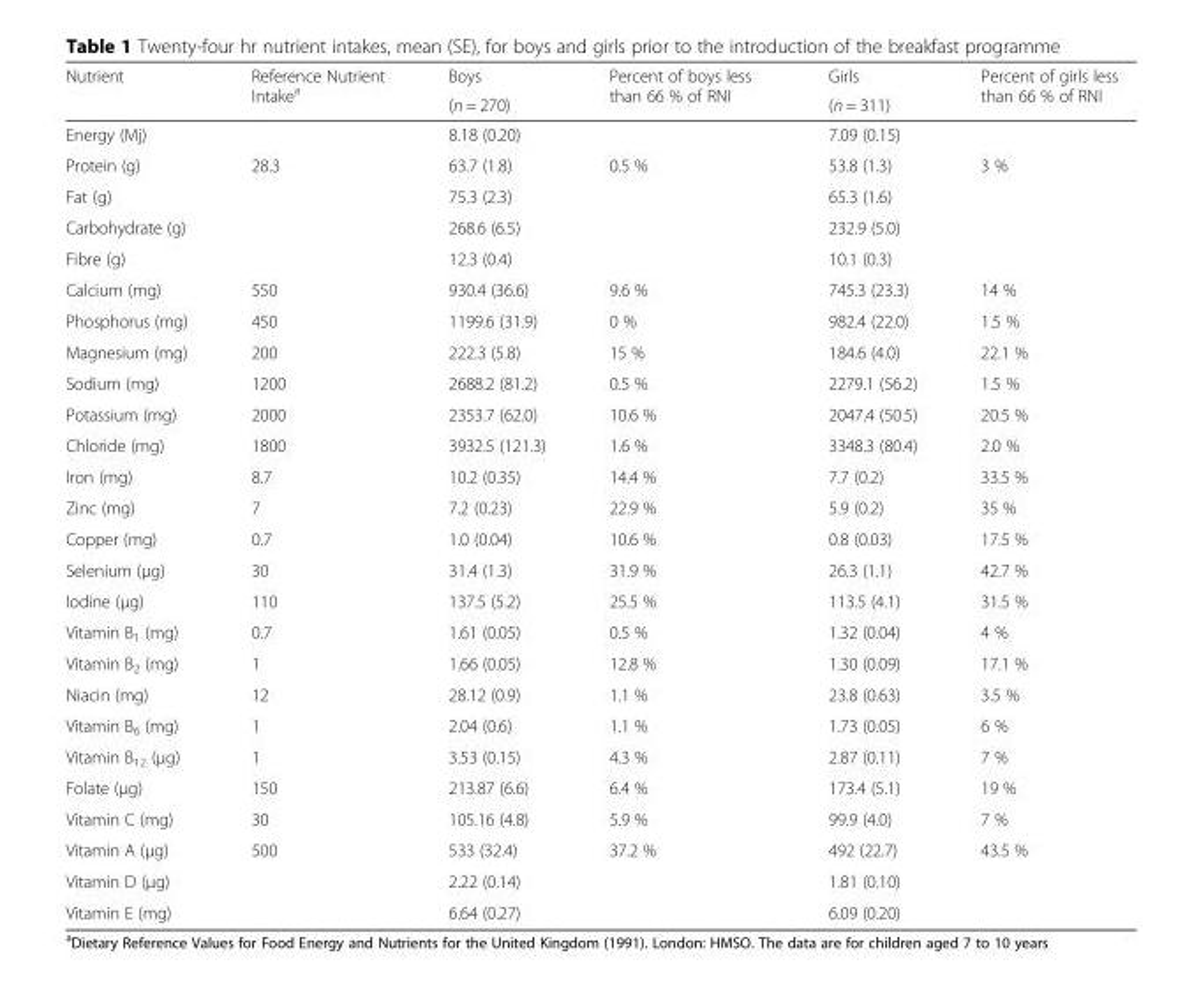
<table><thead><tr><td rowspan="2">Nutrient</td><td rowspan="2">Reference Nutrient Intake<sup>a</sup></td><td rowspan="2">Boys (n = 270)</td><td rowspan="2">Percent of boys less than 66 % of RNI</td><td rowspan="2">Girls (n = 311)</td><td rowspan="2">Percent of girls less than 66 % of RNI</td></tr><tr></tr></thead><tbody><tr><td>Energy (Mj)</td><td></td><td>8.18 (0.20)</td><td></td><td>7.09 (0.15)</td><td></td></tr><tr><td>Protein (g)</td><td>28.3</td><td>63.7 (1.8)</td><td>0.5 %</td><td>53.8 (1.3)</td><td>3 %</td></tr><tr><td>Fat (g)</td><td></td><td>75.3 (2.3)</td><td></td><td>65.3 (1.6)</td><td></td></tr><tr><td>Carbohydrate (g)</td><td></td><td>268.6 (6.5)</td><td></td><td>232.9 (5.0)</td><td></td></tr><tr><td>Fibre (g)</td><td></td><td>12.3 (0.4)</td><td></td><td>10.1 (0.3)</td><td></td></tr><tr><td>Calcium (mg)</td><td>550</td><td>930.4 (36.6)</td><td>9.6 %</td><td>745.3 (23.3)</td><td>14 %</td></tr><tr><td>Phosphorus (mg)</td><td>450</td><td>1199.6 (31.9)</td><td>0 %</td><td>982.4 (22.0)</td><td>1.5 %</td></tr><tr><td>Magnesium (mg)</td><td>200</td><td>222.3 (5.8)</td><td>15 %</td><td>184.6 (4.0)</td><td>22.1 %</td></tr><tr><td>Sodium (mg)</td><td>1200</td><td>2688.2 (81.2)</td><td>0.5 %</td><td>2279.1 (56.2)</td><td>1.5 %</td></tr><tr><td>Potassium (mg)</td><td>2000</td><td>2353.7 (62.0)</td><td>10.6 %</td><td>2047.4 (50.5)</td><td>20.5 %</td></tr><tr><td>Chloride (mg)</td><td>1800</td><td>3932.5 (121.3)</td><td>1.6 %</td><td>3348.3 (80.4)</td><td>2.0 %</td></tr><tr><td>Iron (mg)</td><td>8.7</td><td>10.2 (0.35)</td><td>14.4 %</td><td>7.7 (0.2)</td><td>33.5 %</td></tr><tr><td>Zinc (mg)</td><td>7</td><td>7.2 (0.23)</td><td>22.9 %</td><td>5.9 (0.2)</td><td>35 %</td></tr><tr><td>Copper (mg)</td><td>0.7</td><td>1.0 (0.04)</td><td>10.6 %</td><td>0.8 (0.03)</td><td>17.5 %</td></tr><tr><td>Selenium (μg)</td><td>30</td><td>31.4 (1.3)</td><td>31.9 %</td><td>26.3 (1.1)</td><td>42.7 %</td></tr><tr><td>Iodine (μg)</td><td>110</td><td>137.5 (5.2)</td><td>25.5 %</td><td>113.5 (4.1)</td><td>31.5 %</td></tr><tr><td>Vitamin B<sub>1</sub> (mg)</td><td>0.7</td><td>1.61 (0.05)</td><td>0.5 %</td><td>1.32 (0.04)</td><td>4 %</td></tr><tr><td>Vitamin B<sub>2</sub> (mg)</td><td>1</td><td>1.66 (0.05)</td><td>12.8 %</td><td>1.30 (0.09)</td><td>17.1 %</td></tr><tr><td>Niacin (mg)</td><td>12</td><td>28.12 (0.9)</td><td>1.1 %</td><td>23.8 (0.63)</td><td>3.5 %</td></tr><tr><td>Vitamin B<sub>6</sub> (mg)</td><td>1</td><td>2.04 (0.6)</td><td>1.1 %</td><td>1.73 (0.05)</td><td>6 %</td></tr><tr><td>Vitamin B<sub>12</sub> (μg)</td><td>1</td><td>3.53 (0.15)</td><td>4.3 %</td><td>2.87 (0.11)</td><td>7 %</td></tr><tr><td>Folate (μg)</td><td>150</td><td>213.87 (6.6)</td><td>6.4 %</td><td>173.4 (5.1)</td><td>19 %</td></tr><tr><td>Vitamin C (mg)</td><td>30</td><td>105.16 (4.8)</td><td>5.9 %</td><td>99.9 (4.0)</td><td>7 %</td></tr><tr><td>Vitamin A (μg)</td><td>500</td><td>533 (32.4)</td><td>37.2 %</td><td>492 (22.7)</td><td>43.5 %</td></tr><tr><td>Vitamin D (μg)</td><td></td><td>2.22 (0.14)</td><td></td><td>1.81 (0.10)</td><td></td></tr><tr><td>Vitamin E (mg)</td><td></td><td>6.64 (0.27)</td><td></td><td>6.09 (0.20)</td><td></td></tr></tbody></table>